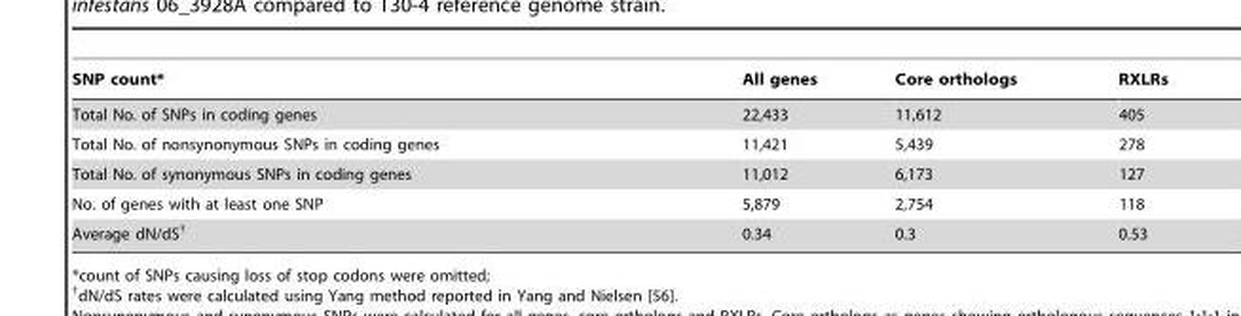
<table><thead><tr><td>SNP count*</td><td>All genes</td><td>Core orthologs</td><td>RXLRs</td></tr></thead><tbody><tr><td>Total No. of SNPs in coding genes</td><td>22,433</td><td>11,612</td><td>405</td></tr><tr><td>Total No. of nonsynonymous SNPs in coding genes</td><td>11,421</td><td>5,439</td><td>278</td></tr><tr><td>Total No. of synonymous SNPs in coding genes</td><td>11,012</td><td>6,173</td><td>127</td></tr><tr><td>No. of genes with at least one SNP</td><td>5,879</td><td>2,754</td><td>118</td></tr><tr><td>Average dN/dS†</td><td>0.34</td><td>0.3</td><td>0.53</td></tr></tbody></table>